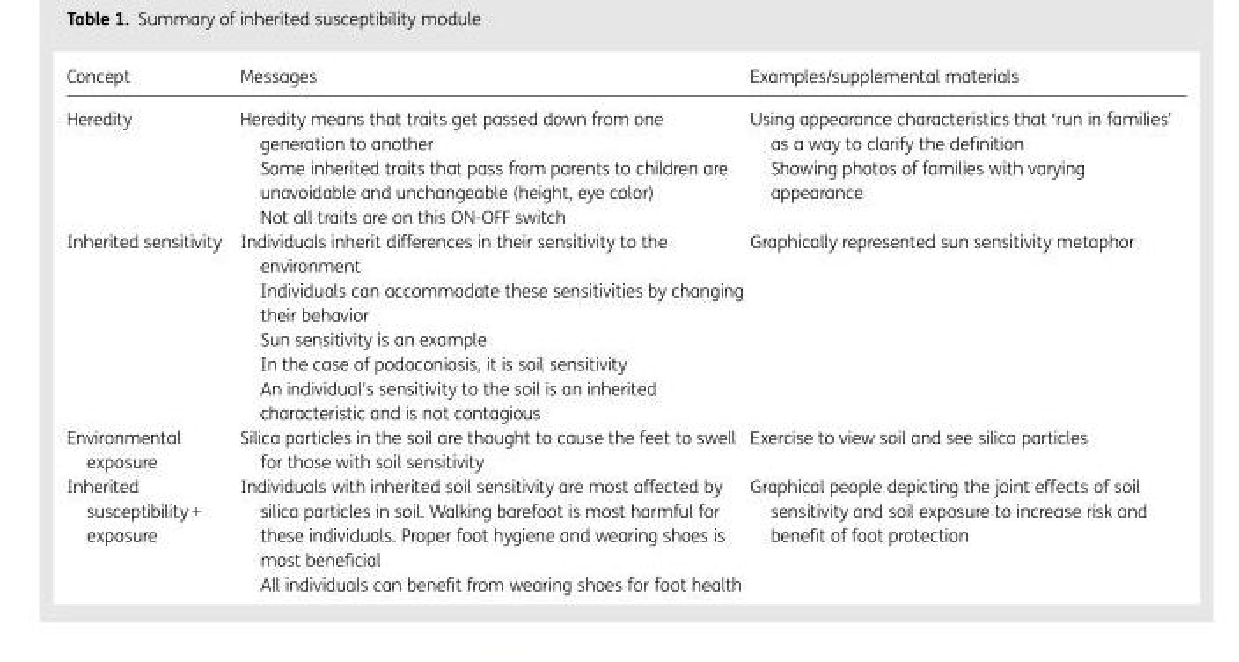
<table><thead><tr><td>Concept</td><td>Messages</td><td>Examples/supplemental materials</td></tr></thead><tbody><tr><td>Heredity</td><td>Heredity means that traits get passed down from one generation to another Some inherited traits that pass from parents to children are unavoidable and unchangeable (height, eye color) Not all traits are on this ON-OFF switch</td><td>Using appearance characteristics that ‘run in families’ as a way to clarify the definition Showing photos of families with varying appearance</td></tr><tr><td>Inherited sensitivity</td><td>Individuals inherit differences in their sensitivity to the environment Individuals can accommodate these sensitivities by changing their behavior Sun sensitivity is an example In the case of podoconiosis, it is soil sensitivity An individual’s sensitivity to the soil is an inherited characteristic and is not contagious</td><td>Graphically represented sun sensitivity metaphor</td></tr><tr><td>Environmental exposure</td><td>Silica particles in the soil are thought to cause the feet to swell for those with soil sensitivity</td><td>Exercise to view soil and see silica particles</td></tr><tr><td>Inherited susceptibility + exposure</td><td>Individuals with inherited soil sensitivity are most affected by silica particles in soil. Walking barefoot is most harmful for these individuals. Proper foot hygiene and wearing shoes is most beneficial All individuals can benefit from wearing shoes for foot health</td><td>Graphical people depicting the joint effects of soil sensitivity and soil exposure to increase risk and benefit of foot protection</td></tr></tbody></table>